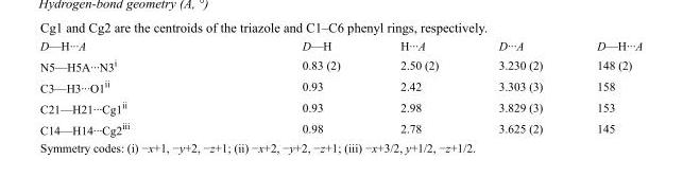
<table><tbody><tr><td>D—H···A</td><td>D—H</td><td>H···A</td><td>D···A</td><td>D—H···A</td></tr><tr><td>N5—H5A···N3<sup>i</sup></td><td>0.83 (2)</td><td>2.50 (2)</td><td>3.230 (2)</td><td>148 (2)</td></tr><tr><td>C3—H3···O1<sup>ii</sup></td><td>0.93</td><td>2.42</td><td>3.303 (3)</td><td>158</td></tr><tr><td>C21—H21···Cg1<sup>ii</sup></td><td>0.93</td><td>2.98</td><td>3.829 (3)</td><td>153</td></tr><tr><td>C14—H14···Cg2<sup>iii</sup></td><td>0.98</td><td>2.78</td><td>3.625 (2)</td><td>145</td></tr></tbody></table>